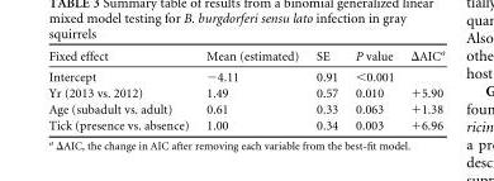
<table><thead><tr><td>Fixed effect</td><td>Mean (estimated)</td><td>SE</td><td>P value</td><td>ΔAIC<sup>a</sup></td></tr></thead><tbody><tr><td>Intercept</td><td>−4.11</td><td>0.91</td><td>&lt;0.001</td><td></td></tr><tr><td>Yr (2013 vs. 2012)</td><td>1.49</td><td>0.57</td><td>0.010</td><td>+5.90</td></tr><tr><td>Age (subadult vs. adult)</td><td>0.61</td><td>0.33</td><td>0.063</td><td>+1.38</td></tr><tr><td>Tick (presence vs. absence)</td><td>1.00</td><td>0.34</td><td>0.003</td><td>+6.96</td></tr></tbody></table>